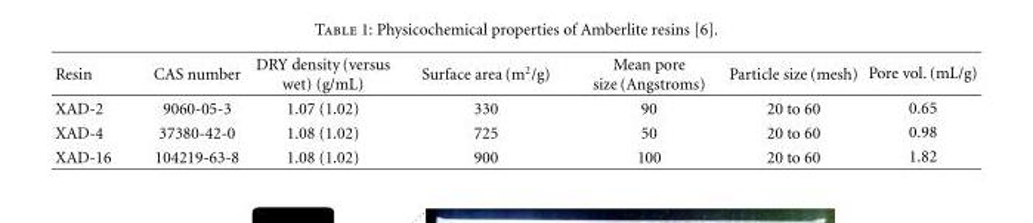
<table><thead><tr><td>Resin</td><td>CAS number</td><td>DRY density (versus wet) (g/mL)</td><td>Surface area (m<sup>2</sup>/g)</td><td>Mean pore size (Angstroms)</td><td>Particle size (mesh)</td><td>Pore vol. (mL/g)</td></tr></thead><tbody><tr><td>XAD-2</td><td>9060-05-3</td><td>1.07 (1.02)</td><td>330</td><td>90</td><td>20 to 60</td><td>0.65</td></tr><tr><td>XAD-4</td><td>37380-42-0</td><td>1.08 (1.02)</td><td>725</td><td>50</td><td>20 to 60</td><td>0.98</td></tr><tr><td>XAD-16</td><td>104219-63-8</td><td>1.08 (1.02)</td><td>900</td><td>100</td><td>20 to 60</td><td>1.82</td></tr></tbody></table>